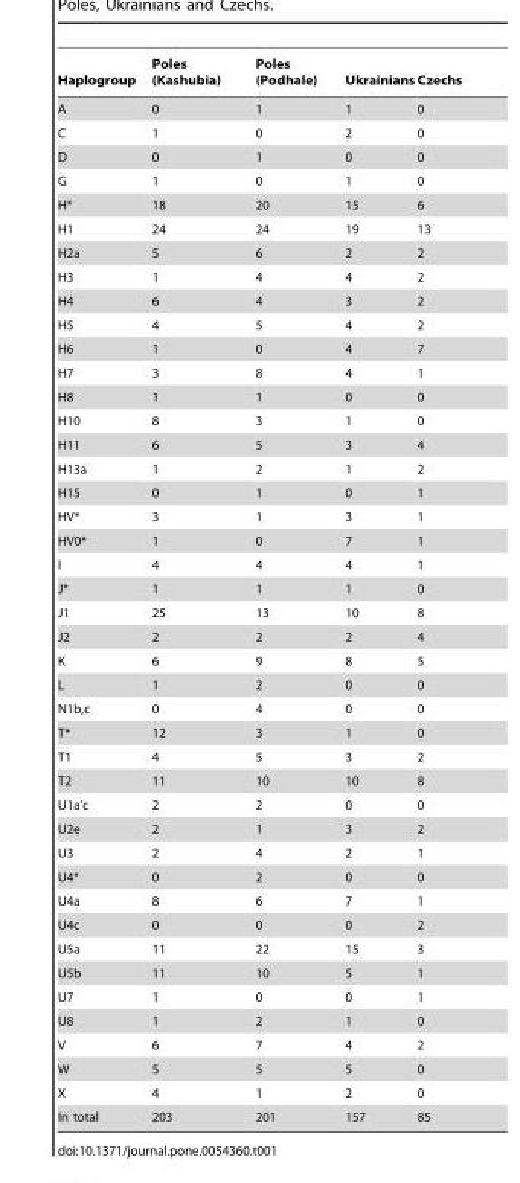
<table><thead><tr><td>Haplogroup</td><td>Poles (Kashubia)</td><td>Poles (Podhale)</td><td>Ukrainians</td><td>Czechs</td></tr></thead><tbody><tr><td>A</td><td>0</td><td>1</td><td>1</td><td>0</td></tr><tr><td>C</td><td>1</td><td>0</td><td>2</td><td>0</td></tr><tr><td>D</td><td>0</td><td>1</td><td>0</td><td>0</td></tr><tr><td>G</td><td>1</td><td>0</td><td>1</td><td>0</td></tr><tr><td>H*</td><td>18</td><td>20</td><td>15</td><td>6</td></tr><tr><td>H1</td><td>24</td><td>24</td><td>19</td><td>13</td></tr><tr><td>H2a</td><td>5</td><td>6</td><td>2</td><td>2</td></tr><tr><td>H3</td><td>1</td><td>4</td><td>4</td><td>2</td></tr><tr><td>H4</td><td>6</td><td>4</td><td>3</td><td>2</td></tr><tr><td>H5</td><td>4</td><td>5</td><td>4</td><td>2</td></tr><tr><td>H6</td><td>1</td><td>0</td><td>4</td><td>7</td></tr><tr><td>H7</td><td>3</td><td>8</td><td>4</td><td>1</td></tr><tr><td>H8</td><td>1</td><td>1</td><td>0</td><td>0</td></tr><tr><td>H10</td><td>8</td><td>3</td><td>1</td><td>0</td></tr><tr><td>H11</td><td>6</td><td>5</td><td>3</td><td>4</td></tr><tr><td>H13a</td><td>1</td><td>2</td><td>1</td><td>2</td></tr><tr><td>H15</td><td>0</td><td>1</td><td>0</td><td>1</td></tr><tr><td>HV*</td><td>3</td><td>1</td><td>3</td><td>1</td></tr><tr><td>HV0*</td><td>1</td><td>0</td><td>7</td><td>1</td></tr><tr><td>I</td><td>4</td><td>4</td><td>4</td><td>1</td></tr><tr><td>J*</td><td>1</td><td>1</td><td>1</td><td>0</td></tr><tr><td>J1</td><td>25</td><td>13</td><td>10</td><td>8</td></tr><tr><td>J2</td><td>2</td><td>2</td><td>2</td><td>4</td></tr><tr><td>K</td><td>6</td><td>9</td><td>8</td><td>5</td></tr><tr><td>L</td><td>1</td><td>2</td><td>0</td><td>0</td></tr><tr><td>N1b,c</td><td>0</td><td>4</td><td>0</td><td>0</td></tr><tr><td>T*</td><td>12</td><td>3</td><td>1</td><td>0</td></tr><tr><td>T1</td><td>4</td><td>5</td><td>3</td><td>2</td></tr><tr><td>T2</td><td>11</td><td>10</td><td>10</td><td>8</td></tr><tr><td>U1a’c</td><td>2</td><td>2</td><td>0</td><td>0</td></tr><tr><td>U2e</td><td>2</td><td>1</td><td>3</td><td>2</td></tr><tr><td>U3</td><td>2</td><td>4</td><td>2</td><td>1</td></tr><tr><td>U4*</td><td>0</td><td>2</td><td>0</td><td>0</td></tr><tr><td>U4a</td><td>8</td><td>6</td><td>7</td><td>1</td></tr><tr><td>U4c</td><td>0</td><td>0</td><td>0</td><td>2</td></tr><tr><td>U5a</td><td>11</td><td>22</td><td>15</td><td>3</td></tr><tr><td>U5b</td><td>11</td><td>10</td><td>5</td><td>1</td></tr><tr><td>U7</td><td>1</td><td>0</td><td>0</td><td>1</td></tr><tr><td>U8</td><td>1</td><td>2</td><td>1</td><td>0</td></tr><tr><td>V</td><td>6</td><td>7</td><td>4</td><td>2</td></tr><tr><td>W</td><td>5</td><td>5</td><td>5</td><td>0</td></tr><tr><td>X</td><td>4</td><td>1</td><td>2</td><td>0</td></tr><tr><td>In total</td><td>203</td><td>201</td><td>157</td><td>85</td></tr></tbody></table>